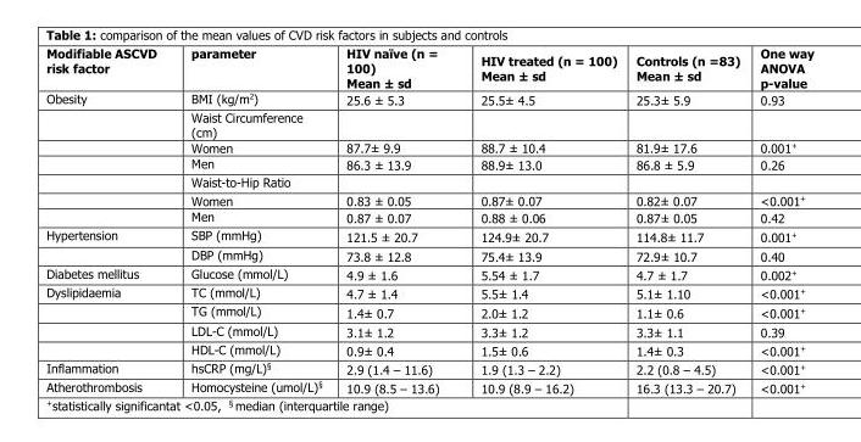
<table><thead><tr><td>Modifiable ASCVD risk factor</td><td>parameter</td><td>HIV naïve (n = 100) Mean ± sd</td><td>HIV treated (n = 100) Mean ± sd</td><td>Controls (n =83) Mean ± sd</td><td>One way ANOVA p-value</td></tr></thead><tbody><tr><td rowspan="7">Obesity</td><td>BMI (kg/m<sup>2</sup>)</td><td>25.6 ± 5.3</td><td>25.5± 4.5</td><td>25.3± 5.9</td><td>0.93</td></tr><tr><td>Waist Circumference (cm)</td><td></td><td></td><td></td><td></td></tr><tr><td>Women</td><td>87.7± 9.9</td><td>88.7 ± 10.4</td><td>81.9± 17.6</td><td>0.001<sup>+</sup></td></tr><tr><td>Men</td><td>86.3 ± 13.9</td><td>88.9± 13.0</td><td>86.8 ± 5.9</td><td>0.26</td></tr><tr><td>Waist-to-Hip Ratio</td><td></td><td></td><td></td><td></td></tr><tr><td>Women</td><td>0.83 ± 0.05</td><td>0.87± 0.07</td><td>0.82± 0.07</td><td>&lt;0.001<sup>+</sup></td></tr><tr><td>Men</td><td>0.87 ± 0.07</td><td>0.88 ± 0.06</td><td>0.87± 0.05</td><td>0.42</td></tr><tr><td rowspan="2">Hypertension</td><td>SBP (mmHg)</td><td>121.5 ± 20.7</td><td>124.9± 20.7</td><td>114.8± 11.7</td><td>0.001<sup>+</sup></td></tr><tr><td>DBP (mmHg)</td><td>73.8 ± 12.8</td><td>75.4± 13.9</td><td>72.9± 10.7</td><td>0.40</td></tr><tr><td>Diabetes mellitus</td><td>Glucose (mmol/L)</td><td>4.9 ± 1.6</td><td>5.54 ± 1.7</td><td>4.7 ± 1.7</td><td>0.002<sup>+</sup></td></tr><tr><td rowspan="4">Dyslipidaemia</td><td>TC (mmol/L)</td><td>4.7 ± 1.4</td><td>5.5± 1.4</td><td>5.1± 1.10</td><td>&lt;0.001<sup>+</sup></td></tr><tr><td>TG (mmol/L)</td><td>1.4± 0.7</td><td>2.0± 1.2</td><td>1.1± 0.6</td><td>&lt;0.001<sup>+</sup></td></tr><tr><td>LDL-C (mmol/L)</td><td>3.1± 1.2</td><td>3.3± 1.2</td><td>3.3± 1.1</td><td>0.39</td></tr><tr><td>HDL-C (mmol/L)</td><td>0.9± 0.4</td><td>1.5± 0.6</td><td>1.4± 0.3</td><td>&lt;0.001<sup>+</sup></td></tr><tr><td>Inflammation</td><td>hsCRP (mg/L)<sup>§</sup></td><td>2.9 (1.4 – 11.6)</td><td>1.9 (1.3 – 2.2)</td><td>2.2 (0.8 – 4.5)</td><td>&lt;0.001<sup>+</sup></td></tr><tr><td>Atherothrombosis</td><td>Homocysteine (umol/L)<sup>§</sup></td><td>10.9 (8.5 – 13.6)</td><td>10.9 (8.9 – 16.2)</td><td>16.3 (13.3 – 20.7)</td><td>&lt;0.001<sup>+</sup></td></tr></tbody></table>